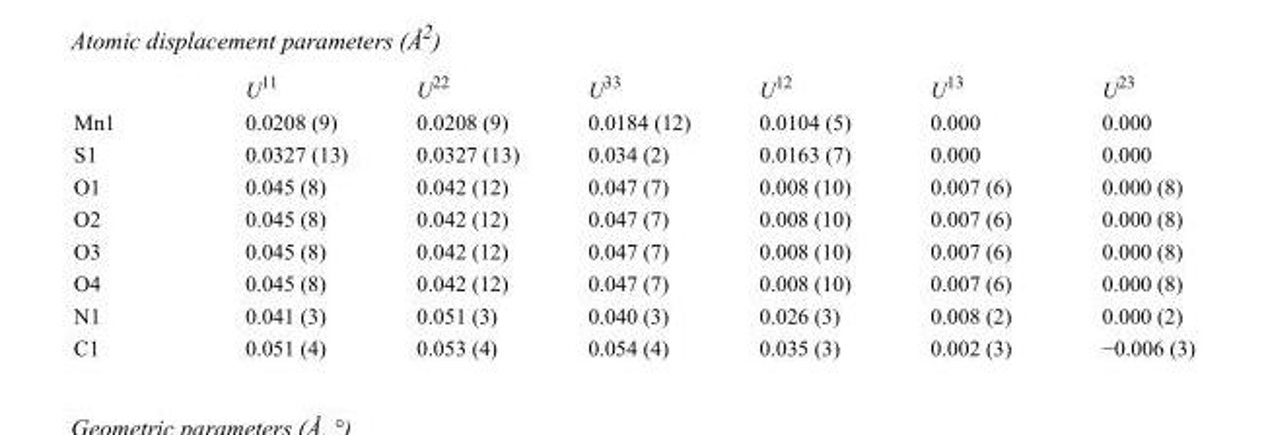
<table><thead><tr><td></td><td>U11</td><td>U22</td><td>U33</td><td>U12</td><td>U13</td><td>U23</td></tr></thead><tbody><tr><td>Mn1</td><td>0.0208 (9)</td><td>0.0208 (9)</td><td>0.0184 (12)</td><td>0.0104 (5)</td><td>0.000</td><td>0.000</td></tr><tr><td>S1</td><td>0.0327 (13)</td><td>0.0327 (13)</td><td>0.034 (2)</td><td>0.0163 (7)</td><td>0.000</td><td>0.000</td></tr><tr><td>O1</td><td>0.045 (8)</td><td>0.042 (12)</td><td>0.047 (7)</td><td>0.008 (10)</td><td>0.007 (6)</td><td>0.000 (8)</td></tr><tr><td>O2</td><td>0.045 (8)</td><td>0.042 (12)</td><td>0.047 (7)</td><td>0.008 (10)</td><td>0.007 (6)</td><td>0.000 (8)</td></tr><tr><td>O3</td><td>0.045 (8)</td><td>0.042 (12)</td><td>0.047 (7)</td><td>0.008 (10)</td><td>0.007 (6)</td><td>0.000 (8)</td></tr><tr><td>O4</td><td>0.045 (8)</td><td>0.042 (12)</td><td>0.047 (7)</td><td>0.008 (10)</td><td>0.007 (6)</td><td>0.000 (8)</td></tr><tr><td>N1</td><td>0.041 (3)</td><td>0.051 (3)</td><td>0.040 (3)</td><td>0.026 (3)</td><td>0.008 (2)</td><td>0.000 (2)</td></tr><tr><td>C1</td><td>0.051 (4)</td><td>0.053 (4)</td><td>0.054 (4)</td><td>0.035 (3)</td><td>0.002 (3)</td><td>−0.006 (3)</td></tr></tbody></table>